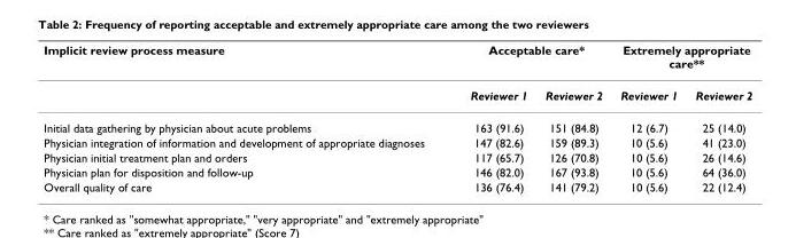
<table><thead><tr><td rowspan="2">Implicit review process measure</td><td colspan="2">Acceptable care*</td><td colspan="2">Extremely appropriate care**</td></tr><tr><td>Reviewer 1</td><td>Reviewer 2</td><td>Reviewer 1</td><td>Reviewer 2</td></tr></thead><tbody><tr><td>Initial data gathering by physician about acute problems</td><td>163 (91.6)</td><td>151 (84.8)</td><td>12 (6.7)</td><td>25 (14.0)</td></tr><tr><td>Physician integration of information and development of appropriate diagnoses</td><td>147 (82.6)</td><td>159 (89.3)</td><td>10 (5.6)</td><td>41 (23.0)</td></tr><tr><td>Physician initial treatment plan and orders</td><td>117 (65.7)</td><td>126 (70.8)</td><td>10 (5.6)</td><td>26 (14.6)</td></tr><tr><td>Physician plan for disposition and follow-up</td><td>146 (82.0)</td><td>167 (93.8)</td><td>10 (5.6)</td><td>64 (36.0)</td></tr><tr><td>Overall quality of care</td><td>136 (76.4)</td><td>141 (79.2)</td><td>10 (5.6)</td><td>22 (12.4)</td></tr></tbody></table>